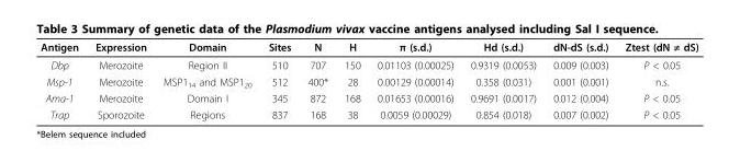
<table><thead><tr><td>Antigen</td><td>Expression</td><td>Domain</td><td>Sites</td><td>N</td><td>H</td><td>π (s.d.)</td><td>Hd (s.d.)</td><td>dN-dS (s.d.)</td><td>Ztest (dN ≠ dS)</td></tr></thead><tbody><tr><td>Dbp</td><td>Merozoite</td><td>Region II</td><td>510</td><td>707</td><td>150</td><td>0.01103 (0.00025)</td><td>0.9319 (0.0053)</td><td>0.009 (0.003)</td><td>P &lt; 0.05</td></tr><tr><td>Msp-1</td><td>Merozoite</td><td>MSP1<sub>14</sub> and MSP1<sub>20</sub></td><td>512</td><td>400*</td><td>28</td><td>0.00129 (0.00014)</td><td>0.358 (0.031)</td><td>0.001 (0.001)</td><td>n.s.</td></tr><tr><td>Ama-1</td><td>Merozoite</td><td>Domain I</td><td>345</td><td>872</td><td>168</td><td>0.01653 (0.00016)</td><td>0.9691 (0.0017)</td><td>0.012 (0.004)</td><td>P &lt; 0.05</td></tr><tr><td>Trap</td><td>Sporozoite</td><td>Regions</td><td>837</td><td>168</td><td>38</td><td>0.0059 (0.00029)</td><td>0.854 (0.018)</td><td>0.007 (0.002)</td><td>P &lt; 0.05</td></tr></tbody></table>